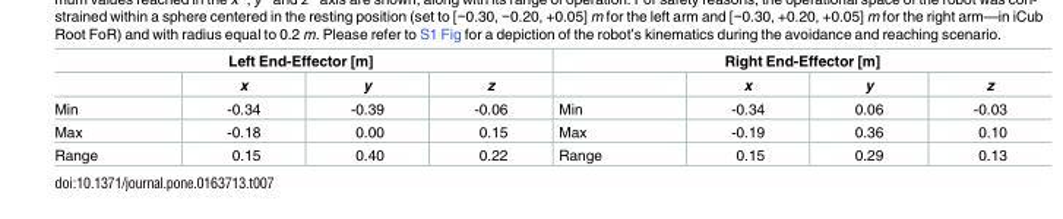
<table><thead><tr><td colspan="4">Left End-Effector [m]</td><td colspan="4">Right End-Effector [m]</td></tr><tr><td></td><td>x</td><td>y</td><td>z</td><td></td><td>x</td><td>y</td><td>z</td></tr></thead><tbody><tr><td>Min</td><td>-0.34</td><td>-0.39</td><td>-0.06</td><td>Min</td><td>-0.34</td><td>0.06</td><td>-0.03</td></tr><tr><td>Max</td><td>-0.18</td><td>0.00</td><td>0.15</td><td>Max</td><td>-0.19</td><td>0.36</td><td>0.10</td></tr><tr><td>Range</td><td>0.15</td><td>0.40</td><td>0.22</td><td>Range</td><td>0.15</td><td>0.29</td><td>0.13</td></tr></tbody></table>